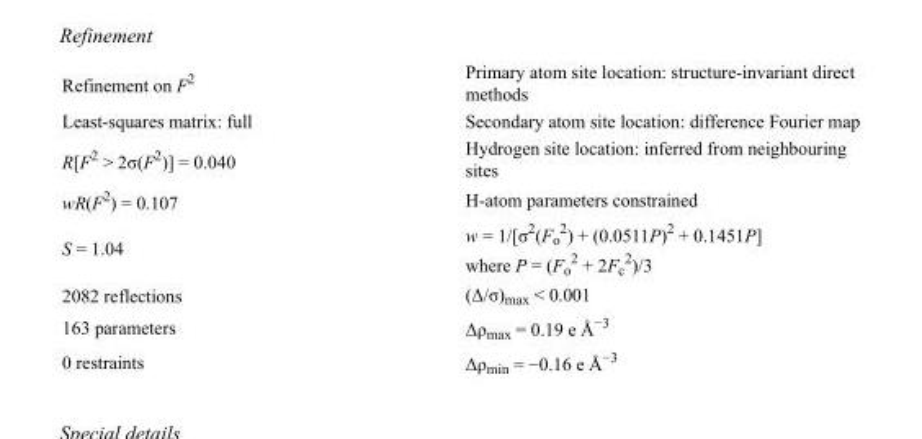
<table><tbody><tr><td>Refinement on F<sup>2</sup></td><td>Primary atom site location: structure-invariant direct methods</td></tr><tr><td>Least-squares matrix: full</td><td>Secondary atom site location: difference Fourier map</td></tr><tr><td>R[F<sup>2</sup> &gt; 2σ(F<sup>2</sup>)] = 0.040</td><td>Hydrogen site location: inferred from neighbouring sites</td></tr><tr><td>wR(F<sup>2</sup>) = 0.107</td><td>H-atom parameters constrained</td></tr><tr><td>S = 1.04</td><td>w = 1/[σ<sup>2</sup>(F<sub>o</sub> <sup>2</sup>) + (0.0511P)<sup>2</sup> + 0.1451P] where P = (F<sub>o</sub> <sup>2</sup> + 2F<sub>c</sub> <sup>2</sup>)/3</td></tr><tr><td>2082 reflections</td><td>(Δ/σ)<sub>max</sub> &lt; 0.001</td></tr><tr><td>163 parameters</td><td>Δρ<sub>max</sub> = 0.19 e Å<sup>−3</sup></td></tr><tr><td>0 restraints</td><td>Δρ<sub>min</sub> = −0.16 e Å<sup>−3</sup></td></tr></tbody></table>